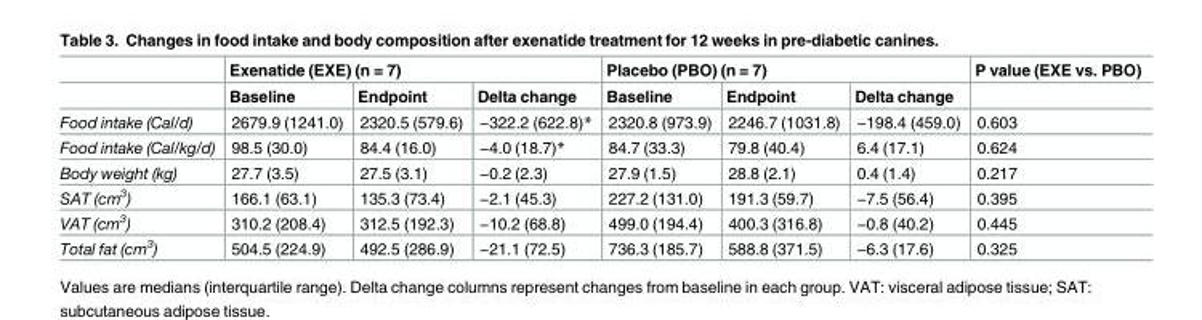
<table><thead><tr><td rowspan="2"></td><td colspan="3">Exenatide (EXE) (n = 7)</td><td colspan="3">Placebo (PBO) (n = 7)</td><td rowspan="2">P value (EXE vs. PBO)</td></tr><tr><td>Baseline</td><td>Endpoint</td><td>Delta change</td><td>Baseline</td><td>Endpoint</td><td>Delta change</td></tr></thead><tbody><tr><td>Food intake (Cal/d)</td><td>2679.9 (1241.0)</td><td>2320.5 (579.6)</td><td>−322.2 (622.8)*</td><td>2320.8 (973.9)</td><td>2246.7 (1031.8)</td><td>−198.4 (459.0)</td><td>0.603</td></tr><tr><td>Food intake (Cal/kg/d)</td><td>98.5 (30.0)</td><td>84.4 (16.0)</td><td>−4.0 (18.7)*</td><td>84.7 (33.3)</td><td>79.8 (40.4)</td><td>6.4 (17.1)</td><td>0.624</td></tr><tr><td>Body weight (kg)</td><td>27.7 (3.5)</td><td>27.5 (3.1)</td><td>−0.2 (2.3)</td><td>27.9 (1.5)</td><td>28.8 (2.1)</td><td>0.4 (1.4)</td><td>0.217</td></tr><tr><td>SAT (cm<sup>3</sup>)</td><td>166.1 (63.1)</td><td>135.3 (73.4)</td><td>−2.1 (45.3)</td><td>227.2 (131.0)</td><td>191.3 (59.7)</td><td>−7.5 (56.4)</td><td>0.395</td></tr><tr><td>VAT (cm<sup>3</sup>)</td><td>310.2 (208.4)</td><td>312.5 (192.3)</td><td>−10.2 (68.8)</td><td>499.0 (194.4)</td><td>400.3 (316.8)</td><td>−0.8 (40.2)</td><td>0.445</td></tr><tr><td>Total fat (cm<sup>3</sup>)</td><td>504.5 (224.9)</td><td>492.5 (286.9)</td><td>−21.1 (72.5)</td><td>736.3 (185.7)</td><td>588.8 (371.5)</td><td>−6.3 (17.6)</td><td>0.325</td></tr></tbody></table>